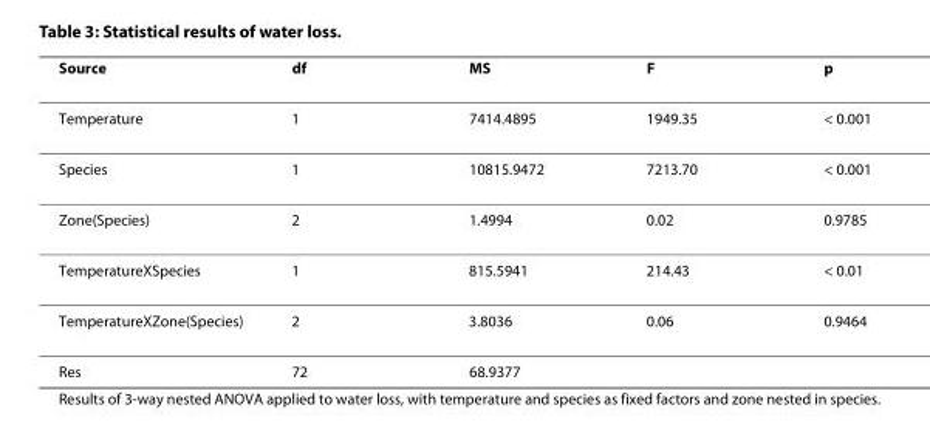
<table><thead><tr><td>Source</td><td>df</td><td>MS</td><td>F</td><td>p</td></tr></thead><tbody><tr><td>Temperature</td><td>1</td><td>7414.4895</td><td>1949.35</td><td>&lt; 0.001</td></tr><tr><td>Species</td><td>1</td><td>10815.9472</td><td>7213.70</td><td>&lt; 0.001</td></tr><tr><td>Zone(Species)</td><td>2</td><td>1.4994</td><td>0.02</td><td>0.9785</td></tr><tr><td>TemperatureXSpecies</td><td>1</td><td>815.5941</td><td>214.43</td><td>&lt; 0.01</td></tr><tr><td>TemperatureXZone(Species)</td><td>2</td><td>3.8036</td><td>0.06</td><td>0.9464</td></tr><tr><td>Res</td><td>72</td><td>68.9377</td><td></td><td></td></tr></tbody></table>